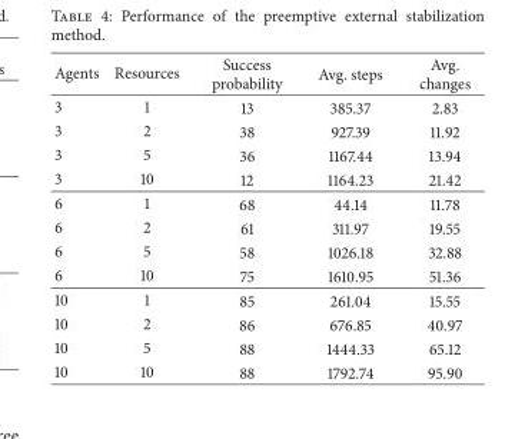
<table><thead><tr><td>Agents</td><td>Resources</td><td>Success probability</td><td>Avg. steps</td><td>Avg. changes</td></tr></thead><tbody><tr><td>3</td><td>1</td><td>13</td><td>385.37</td><td>2.83</td></tr><tr><td>3</td><td>2</td><td>38</td><td>927.39</td><td>11.92</td></tr><tr><td>3</td><td>5</td><td>36</td><td>1167.44</td><td>13.94</td></tr><tr><td>3</td><td>10</td><td>12</td><td>1164.23</td><td>21.42</td></tr><tr><td>6</td><td>1</td><td>68</td><td>44.14</td><td>11.78</td></tr><tr><td>6</td><td>2</td><td>61</td><td>311.97</td><td>19.55</td></tr><tr><td>6</td><td>5</td><td>58</td><td>1026.18</td><td>32.88</td></tr><tr><td>6</td><td>10</td><td>75</td><td>1610.95</td><td>51.36</td></tr><tr><td>10</td><td>1</td><td>85</td><td>261.04</td><td>15.55</td></tr><tr><td>10</td><td>2</td><td>86</td><td>676.85</td><td>40.97</td></tr><tr><td>10</td><td>5</td><td>88</td><td>1444.33</td><td>65.12</td></tr><tr><td>10</td><td>10</td><td>88</td><td>1792.74</td><td>95.90</td></tr></tbody></table>